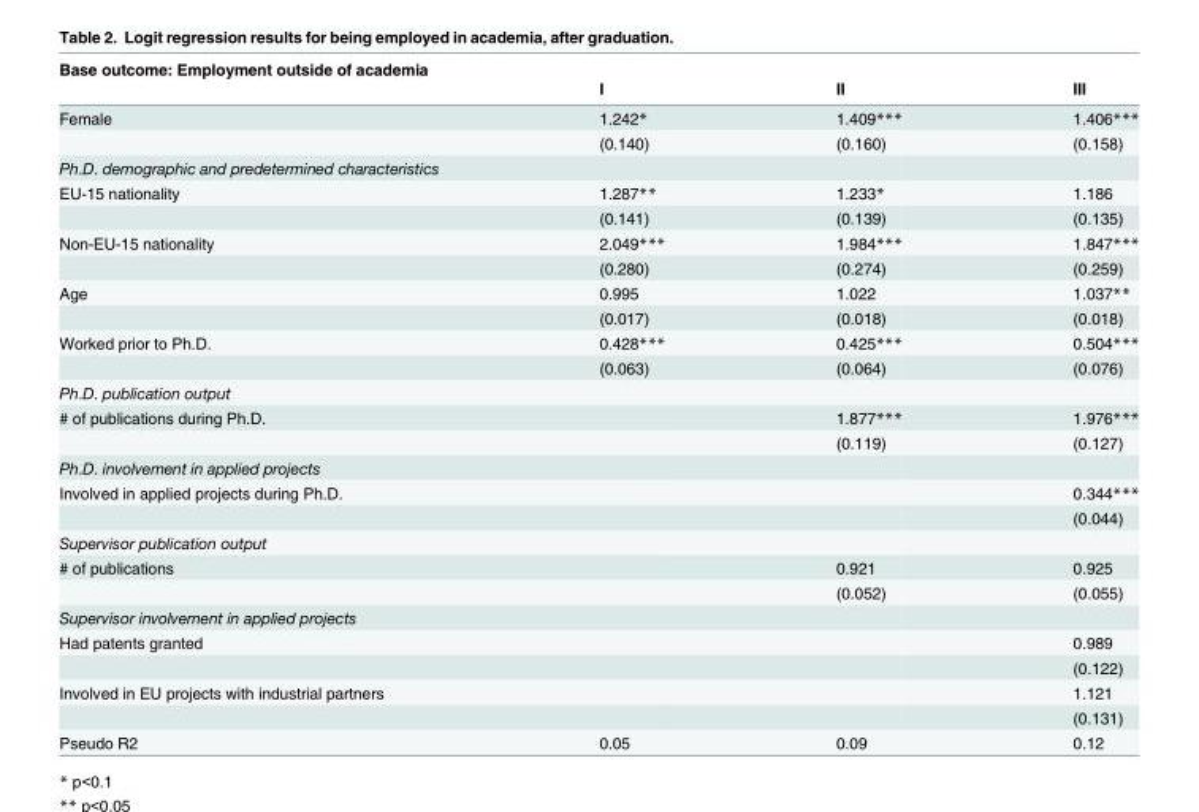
<table><thead><tr><td rowspan="2">Base outcome: Employment outside of academia</td><td rowspan="2">I</td><td rowspan="2">II</td><td rowspan="2">III</td></tr><tr></tr></thead><tbody><tr><td rowspan="2">Female</td><td>1.242*</td><td>1.409***</td><td>1.406***</td></tr><tr><td>(0.140)</td><td>(0.160)</td><td>(0.158)</td></tr><tr><td colspan="4">Ph.D. demographic and predetermined characteristics</td></tr><tr><td rowspan="2">EU-15 nationality</td><td>1.287**</td><td>1.233*</td><td>1.186</td></tr><tr><td>(0.141)</td><td>(0.139)</td><td>(0.135)</td></tr><tr><td rowspan="2">Non-EU-15 nationality</td><td>2.049***</td><td>1.984***</td><td>1.847***</td></tr><tr><td>(0.280)</td><td>(0.274)</td><td>(0.259)</td></tr><tr><td rowspan="2">Age</td><td>0.995</td><td>1.022</td><td>1.037**</td></tr><tr><td>(0.017)</td><td>(0.018)</td><td>(0.018)</td></tr><tr><td rowspan="2">Worked prior to Ph.D.</td><td>0.428***</td><td>0.425***</td><td>0.504***</td></tr><tr><td>(0.063)</td><td>(0.064)</td><td>(0.076)</td></tr><tr><td colspan="4">Ph.D. publication output</td></tr><tr><td rowspan="2"># of publications during Ph.D.</td><td></td><td>1.877***</td><td>1.976***</td></tr><tr><td></td><td>(0.119)</td><td>(0.127)</td></tr><tr><td colspan="4">Ph.D. involvement in applied projects</td></tr><tr><td rowspan="2">Involved in applied projects during Ph.D.</td><td></td><td></td><td>0.344***</td></tr><tr><td></td><td></td><td>(0.044)</td></tr><tr><td colspan="4">Supervisor publication output</td></tr><tr><td rowspan="2"># of publications</td><td></td><td>0.921</td><td>0.925</td></tr><tr><td></td><td>(0.052)</td><td>(0.055)</td></tr><tr><td colspan="4">Supervisor involvement in applied projects</td></tr><tr><td rowspan="2">Had patents granted</td><td></td><td></td><td>0.989</td></tr><tr><td></td><td></td><td>(0.122)</td></tr><tr><td rowspan="2">Involved in EU projects with industrial partners</td><td></td><td></td><td>1.121</td></tr><tr><td></td><td></td><td>(0.131)</td></tr><tr><td>Pseudo R2</td><td>0.05</td><td>0.09</td><td>0.12</td></tr></tbody></table>